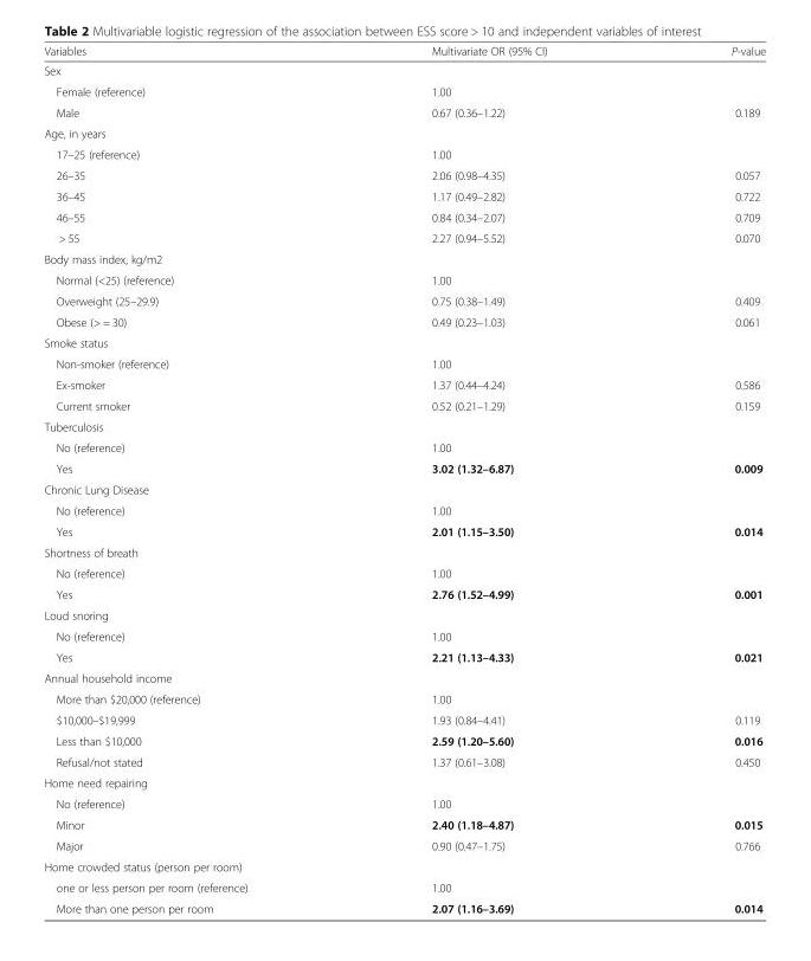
<table><thead><tr><td>Variables</td><td>Multivariate OR (95% CI)</td><td>P-value</td></tr></thead><tbody><tr><td colspan="3">Sex</td></tr><tr><td>Female (reference)</td><td>1.00</td><td></td></tr><tr><td>Male</td><td>0.67 (0.36–1.22)</td><td>0.189</td></tr><tr><td colspan="3">Age, in years</td></tr><tr><td>17–25 (reference)</td><td>1.00</td><td></td></tr><tr><td>26–35</td><td>2.06 (0.98–4.35)</td><td>0.057</td></tr><tr><td>36–45</td><td>1.17 (0.49–2.82)</td><td>0.722</td></tr><tr><td>46–55</td><td>0.84 (0.34–2.07)</td><td>0.709</td></tr><tr><td>&gt; 55</td><td>2.27 (0.94–5.52)</td><td>0.070</td></tr><tr><td colspan="3">Body mass index, kg/m2</td></tr><tr><td>Normal (&lt;25) (reference)</td><td>1.00</td><td></td></tr><tr><td>Overweight (25–29.9)</td><td>0.75 (0.38–1.49)</td><td>0.409</td></tr><tr><td>Obese (&gt; = 30)</td><td>0.49 (0.23–1.03)</td><td>0.061</td></tr><tr><td colspan="3">Smoke status</td></tr><tr><td>Non-smoker (reference)</td><td>1.00</td><td></td></tr><tr><td>Ex-smoker</td><td>1.37 (0.44–4.24)</td><td>0.586</td></tr><tr><td>Current smoker</td><td>0.52 (0.21–1.29)</td><td>0.159</td></tr><tr><td colspan="3">Tuberculosis</td></tr><tr><td>No (reference)</td><td>1.00</td><td></td></tr><tr><td>Yes</td><td>3.02 (1.32–6.87)</td><td>0.009</td></tr><tr><td colspan="3">Chronic Lung Disease</td></tr><tr><td>No (reference)</td><td>1.00</td><td></td></tr><tr><td>Yes</td><td>2.01 (1.15–3.50)</td><td>0.014</td></tr><tr><td colspan="3">Shortness of breath</td></tr><tr><td>No (reference)</td><td>1.00</td><td></td></tr><tr><td>Yes</td><td>2.76 (1.52–4.99)</td><td>0.001</td></tr><tr><td colspan="3">Loud snoring</td></tr><tr><td>No (reference)</td><td>1.00</td><td></td></tr><tr><td>Yes</td><td>2.21 (1.13–4.33)</td><td>0.021</td></tr><tr><td colspan="3">Annual household income</td></tr><tr><td>More than $20,000 (reference)</td><td>1.00</td><td></td></tr><tr><td>$10,000–$19,999</td><td>1.93 (0.84–4.41)</td><td>0.119</td></tr><tr><td>Less than $10,000</td><td>2.59 (1.20–5.60)</td><td>0.016</td></tr><tr><td>Refusal/not stated</td><td>1.37 (0.61–3.08)</td><td>0.450</td></tr><tr><td colspan="3">Home need repairing</td></tr><tr><td>No (reference)</td><td>1.00</td><td></td></tr><tr><td>Minor</td><td>2.40 (1.18–4.87)</td><td>0.015</td></tr><tr><td>Major</td><td>0.90 (0.47–1.75)</td><td>0.766</td></tr><tr><td colspan="3">Home crowded status (person per room)</td></tr><tr><td>one or less person per room (reference)</td><td>1.00</td><td></td></tr><tr><td>More than one person per room</td><td>2.07 (1.16–3.69)</td><td>0.014</td></tr></tbody></table>